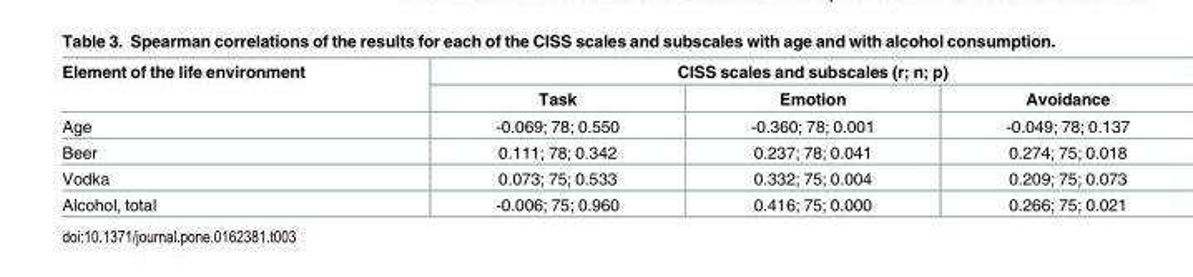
<table><thead><tr><td rowspan="2">Element of the life environment</td><td colspan="3">CISS scales and subscales (r; n; p)</td></tr><tr><td>Task</td><td>Emotion</td><td>Avoidance</td></tr></thead><tbody><tr><td>Age</td><td>-0.069; 78; 0.550</td><td>-0.360; 78; 0.001</td><td>-0.049; 78; 0.137</td></tr><tr><td>Beer</td><td>0.111; 78; 0.342</td><td>0.237; 78; 0.041</td><td>0.274; 75; 0.018</td></tr><tr><td>Vodka</td><td>0.073; 75; 0.533</td><td>0.332; 75; 0.004</td><td>0.209; 75; 0.073</td></tr><tr><td>Alcohol, total</td><td>-0.006; 75; 0.960</td><td>0.416; 75; 0.000</td><td>0.266; 75; 0.021</td></tr></tbody></table>